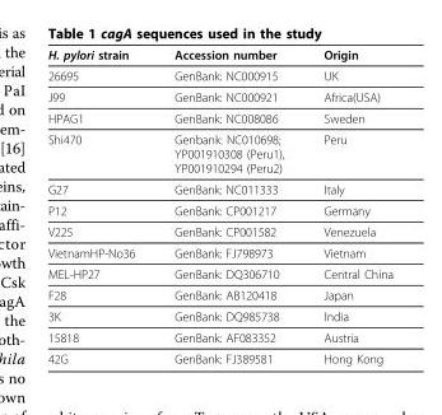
<table><thead><tr><td>H. pylori strain</td><td>Accession number</td><td>Origin</td></tr></thead><tbody><tr><td>26695</td><td>GenBank: NC000915</td><td>UK</td></tr><tr><td>J99</td><td>GenBank: NC000921</td><td>Africa(USA)</td></tr><tr><td>HPAG1</td><td>GenBank: NC008086</td><td>Sweden</td></tr><tr><td>Shi470</td><td>Genbank: NC010698; YP001910308 (Peru1), YP001910294 (Peru2)</td><td>Peru</td></tr><tr><td>G27</td><td>GenBank: NC011333</td><td>Italy</td></tr><tr><td>P12</td><td>GenBank: CP001217</td><td>Germany</td></tr><tr><td>V225</td><td>GenBank: CP001582</td><td>Venezuela</td></tr><tr><td>VietnamHP-No36</td><td>GenBank: FJ798973</td><td>Vietnam</td></tr><tr><td>MEL-HP27</td><td>GenBank: DQ306710</td><td>Central China</td></tr><tr><td>F28</td><td>GenBank: AB120418</td><td>Japan</td></tr><tr><td>3K</td><td>GenBank: DQ985738</td><td>India</td></tr><tr><td>15818</td><td>GenBank: AF083352</td><td>Austria</td></tr><tr><td>42G</td><td>GenBank: FJ389581</td><td>Hong Kong</td></tr></tbody></table>